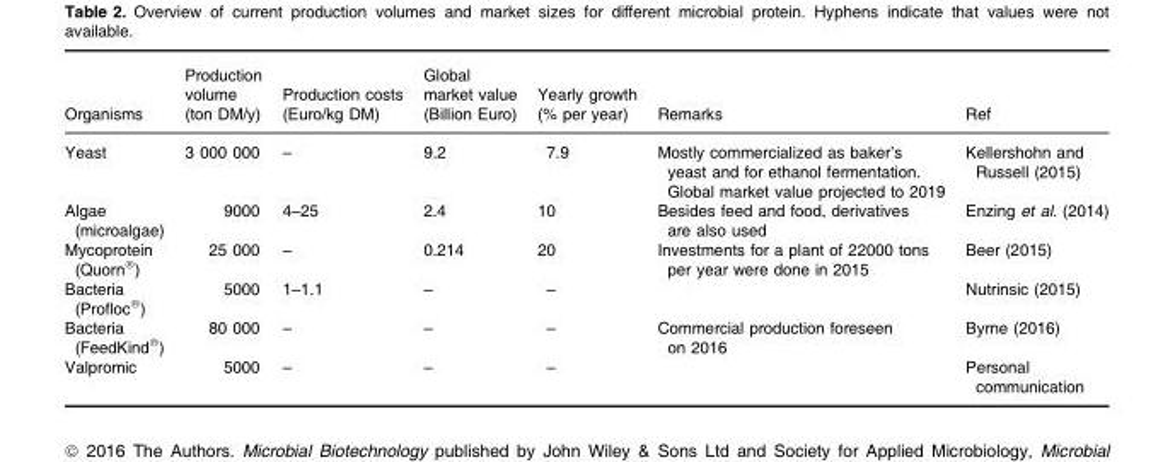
<table><thead><tr><td>Organisms</td><td>Production volume (ton DM/y)</td><td>Production costs (Euro/kg DM)</td><td>Global market value (Billion Euro)</td><td>Yearly growth (% per year)</td><td>Remarks</td><td>Ref</td></tr></thead><tbody><tr><td>Yeast</td><td>3 000 000</td><td>–</td><td>9.2</td><td>7.9</td><td>Mostly commercialized as baker’s yeast and for ethanol fermentation. Global market value projected to 2019</td><td>Kellershohn and Russell (2015)</td></tr><tr><td>Algae (microalgae)</td><td>9000</td><td>4–25</td><td>2.4</td><td>10</td><td>Besides feed and food, derivatives are also used</td><td>Enzing et al. (2014)</td></tr><tr><td>Mycoprotein (Quorn<sup>®</sup>)</td><td>25 000</td><td>–</td><td>0.214</td><td>20</td><td>Investments for a plant of 22000 tons per year were done in 2015</td><td>Beer (2015)</td></tr><tr><td>Bacteria (Profloc<sup>®</sup>)</td><td>5000</td><td>1–1.1</td><td>–</td><td>–</td><td></td><td>Nutrinsic (2015)</td></tr><tr><td>Bacteria (FeedKind<sup>®</sup>)</td><td>80 000</td><td>–</td><td>–</td><td>–</td><td>Commercial production foreseen on 2016</td><td>Byrne (2016)</td></tr><tr><td>Valpromic</td><td>5000</td><td>–</td><td>–</td><td>–</td><td></td><td>Personal communication</td></tr></tbody></table>